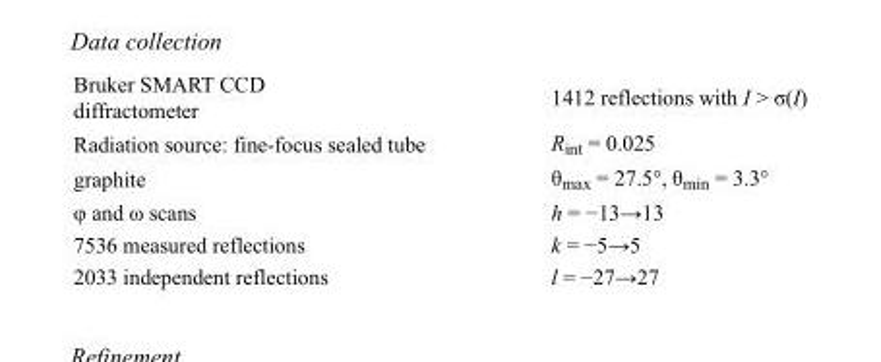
<table><tbody><tr><td>Bruker SMART CCD diffractometer</td><td>1412 reflections with I &gt; σ(I)</td></tr><tr><td>Radiation source: fine-focus sealed tube</td><td>R<sub>int</sub> = 0.025</td></tr><tr><td>graphite</td><td>θ<sub>max</sub> = 27.5°, θ<sub>min</sub> = 3.3°</td></tr><tr><td>φ and ω scans</td><td>h = −13→13</td></tr><tr><td>7536 measured reflections</td><td>k = −5→5</td></tr><tr><td>2033 independent reflections</td><td>l = −27→27</td></tr></tbody></table>